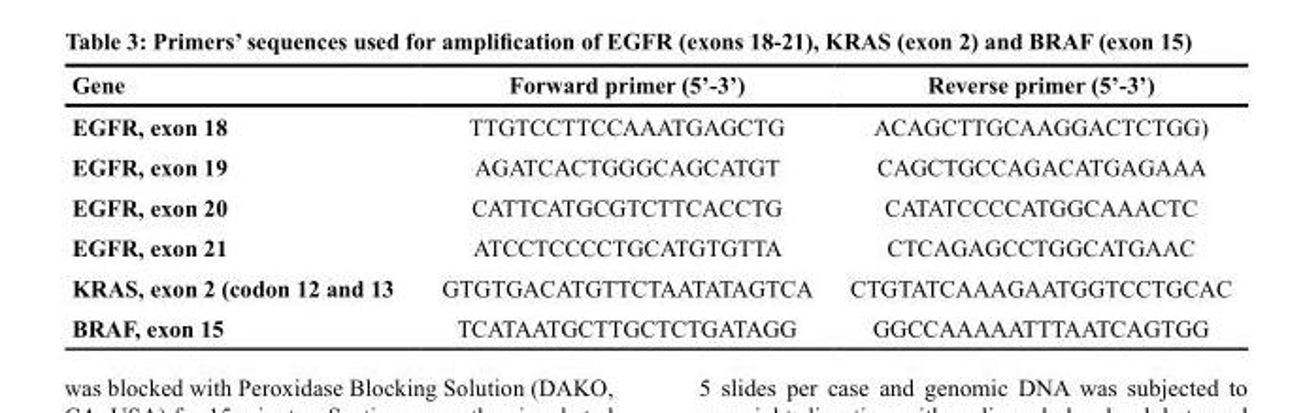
<table><thead><tr><td>Gene</td><td>Forward primer (5’-3’)</td><td>Reverse primer (5’-3’)</td></tr></thead><tbody><tr><td>EGFR, exon 18</td><td>TTGTCCTTCCAAATGAGCTG</td><td>ACAGCTTGCAAGGACTCTGG)</td></tr><tr><td>EGFR, exon 19</td><td>AGATCACTGGGCAGCATGT</td><td>CAGCTGCCAGACATGAGAAA</td></tr><tr><td>EGFR, exon 20</td><td>CATTCATGCGTCTTCACCTG</td><td>CATATCCCCATGGCAAACTC</td></tr><tr><td>EGFR, exon 21</td><td>ATCCTCCCCTGCATGTGTTA</td><td>CTCAGAGCCTGGCATGAAC</td></tr><tr><td>KRAS, exon 2 (codon 12 and 13</td><td>GTGTGACATGTTCTAATATAGTCA</td><td>CTGTATCAAAGAATGGTCCTGCAC</td></tr><tr><td>BRAF, exon 15</td><td>TCATAATGCTTGCTCTGATAGG</td><td>GGCCAAAAATTTAATCAGTGG</td></tr></tbody></table>